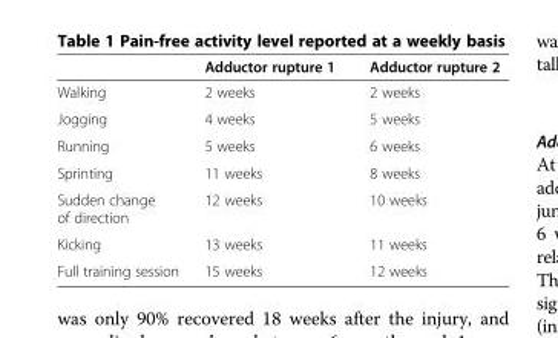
<table><thead><tr><td></td><td>Adductor rupture 1</td><td>Adductor rupture 2</td></tr></thead><tbody><tr><td>Walking</td><td>2 weeks</td><td>2 weeks</td></tr><tr><td>Jogging</td><td>4 weeks</td><td>5 weeks</td></tr><tr><td>Running</td><td>5 weeks</td><td>6 weeks</td></tr><tr><td>Sprinting</td><td>11 weeks</td><td>8 weeks</td></tr><tr><td>Sudden change of direction</td><td>12 weeks</td><td>10 weeks</td></tr><tr><td>Kicking</td><td>13 weeks</td><td>11 weeks</td></tr><tr><td>Full training session</td><td>15 weeks</td><td>12 weeks</td></tr></tbody></table>